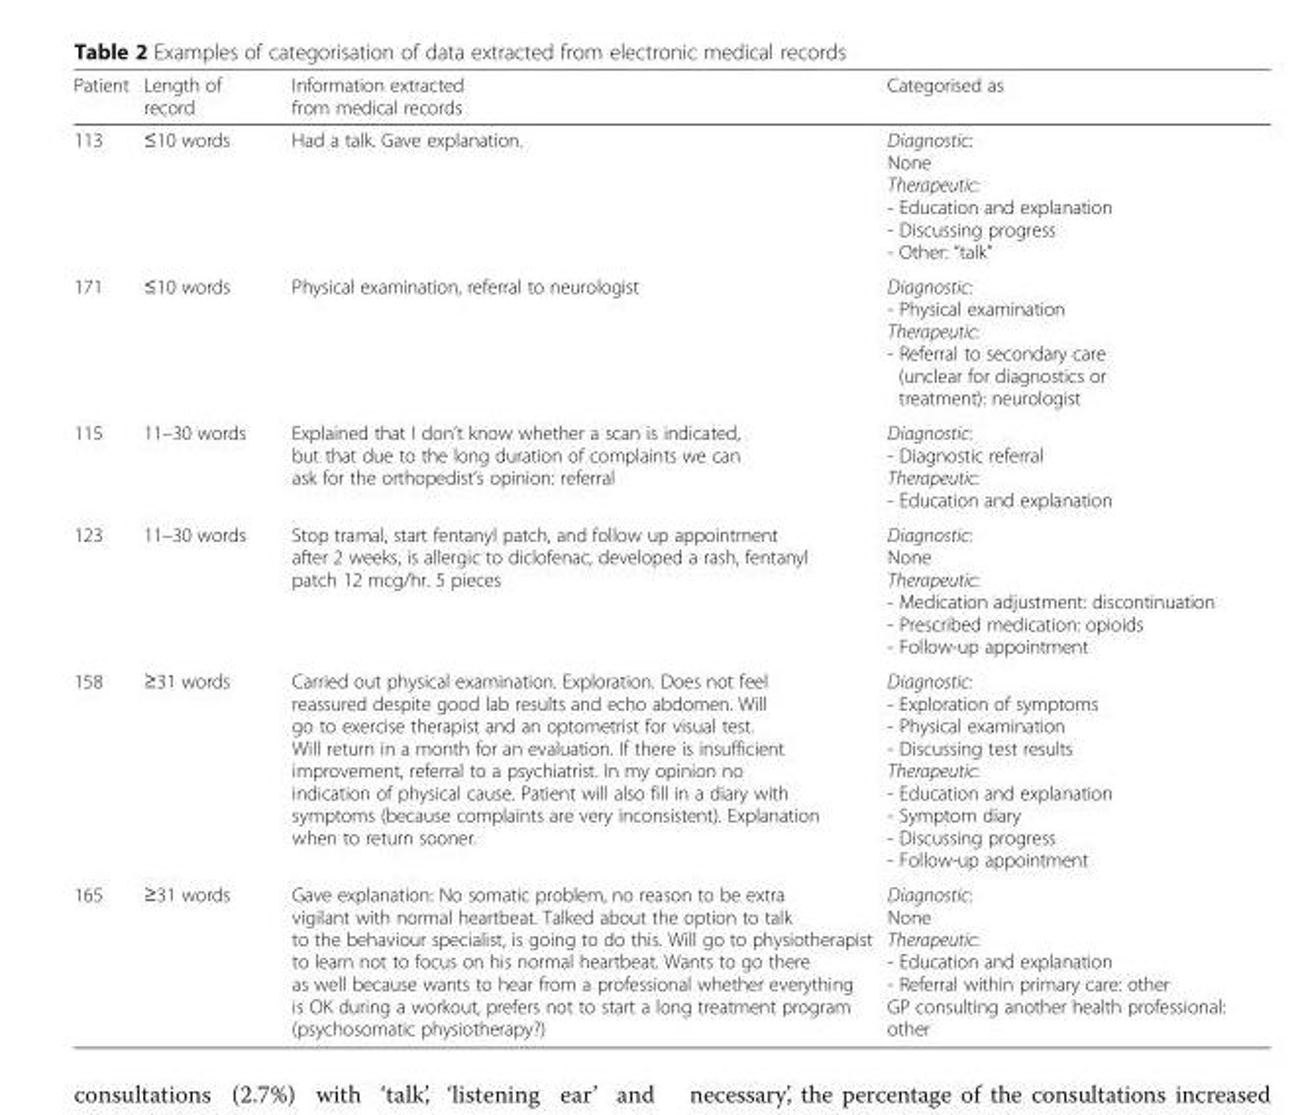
<table><thead><tr><td>Patient</td><td>Length of record</td><td>Information extracted from medical records</td><td>Categorised as</td></tr></thead><tbody><tr><td>113</td><td>≤10 words</td><td>Had a talk. Gave explanation.</td><td>Diagnostic: None Therapeutic: - Education and explanation - Discussing progress - Other: “talk”</td></tr><tr><td>171</td><td>≤10 words</td><td>Physical examination, referral to neurologist</td><td>Diagnostic: - Physical examination Therapeutic: - Referral to secondary care (unclear for diagnostics or treatment): neurologist</td></tr><tr><td>115</td><td>11–30 words</td><td>Explained that I don’t know whether a scan is indicated, but that due to the long duration of complaints we can ask for the orthopedist’s opinion: referral</td><td>Diagnostic: - Diagnostic referral Therapeutic: - Education and explanation</td></tr><tr><td>123</td><td>11–30 words</td><td>Stop tramal, start fentanyl patch, and follow up appointment after 2 weeks, is allergic to diclofenac, developed a rash, fentanyl patch 12 mcg/hr. 5 pieces</td><td>Diagnostic: None Therapeutic: - Medication adjustment: discontinuation - Prescribed medication: opioids - Follow-up appointment</td></tr><tr><td>158</td><td>≥31 words</td><td>Carried out physical examination. Exploration. Does not feel reassured despite good lab results and echo abdomen. Will go to exercise therapist and an optometrist for visual test. Will return in a month for an evaluation. If there is insufficient improvement, referral to a psychiatrist. In my opinion no indication of physical cause. Patient will also fill in a diary with symptoms (because complaints are very inconsistent). Explanation when to return sooner.</td><td>Diagnostic: - Exploration of symptoms - Physical examination - Discussing test results Therapeutic: - Education and explanation - Symptom diary - Discussing progress - Follow-up appointment</td></tr><tr><td>165</td><td>≥31 words</td><td>Gave explanation: No somatic problem, no reason to be extra vigilant with normal heartbeat. Talked about the option to talk to the behaviour specialist, is going to do this. Will go to physiotherapist to learn not to focus on his normal heartbeat. Wants to go there as well because wants to hear from a professional whether everything is OK during a workout, prefers not to start a long treatment program (psychosomatic physiotherapy?)</td><td>Diagnostic: None Therapeutic: - Education and explanation - Referral within primary care: other GP consulting another health professional: other</td></tr></tbody></table>